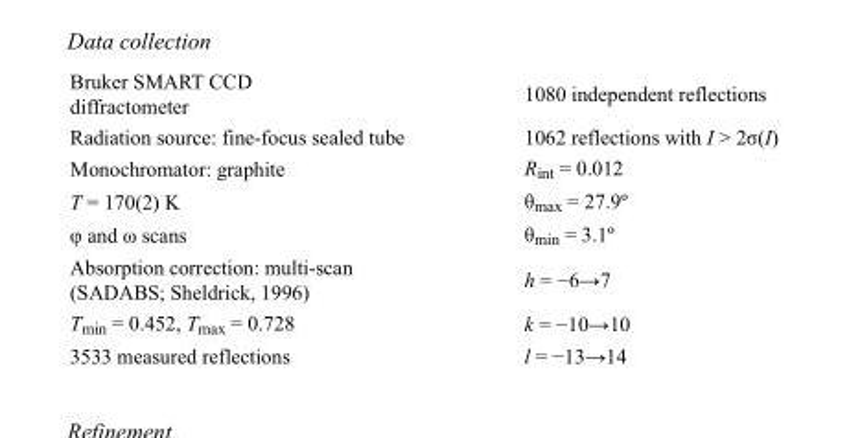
<table><tbody><tr><td>Bruker SMART CCD diffractometer</td><td>1080 independent reflections</td></tr><tr><td>Radiation source: fine-focus sealed tube</td><td>1062 reflections with I &gt; 2σ(I)</td></tr><tr><td>Monochromator: graphite</td><td>R<sub>int</sub> = 0.012</td></tr><tr><td>T = 170(2) K</td><td>θ<sub>max</sub> = 27.9º</td></tr><tr><td>φ and ω scans</td><td>θ<sub>min</sub> = 3.1º</td></tr><tr><td>Absorption correction: multi-scan (SADABS; Sheldrick, 1996)</td><td>h = −6→7</td></tr><tr><td>T<sub>min</sub> = 0.452, T<sub>max</sub> = 0.728</td><td>k = −10→10</td></tr><tr><td>3533 measured reflections</td><td>l = −13→14</td></tr></tbody></table>